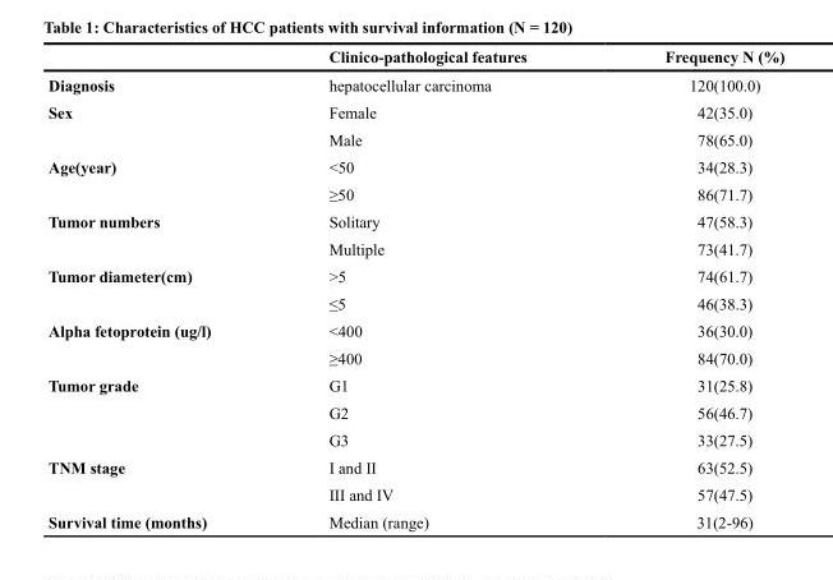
<table><thead><tr><td></td><td>Clinico-pathological features</td><td>Frequency N (%)</td></tr></thead><tbody><tr><td>Diagnosis</td><td>hepatocellular carcinoma</td><td>120(100.0)</td></tr><tr><td rowspan="2">Sex</td><td>Female</td><td>42(35.0)</td></tr><tr><td>Male</td><td>78(65.0)</td></tr><tr><td rowspan="2">Age(year)</td><td>&lt;50</td><td>34(28.3)</td></tr><tr><td>≥50</td><td>86(71.7)</td></tr><tr><td rowspan="2">Tumor numbers</td><td>Solitary</td><td>47(58.3)</td></tr><tr><td>Multiple</td><td>73(41.7)</td></tr><tr><td rowspan="2">Tumor diameter(cm)</td><td>&gt;5</td><td>74(61.7)</td></tr><tr><td>≤5</td><td>46(38.3)</td></tr><tr><td rowspan="2">Alpha fetoprotein (ug/l)</td><td>&lt;400</td><td>36(30.0)</td></tr><tr><td>≥400</td><td>84(70.0)</td></tr><tr><td rowspan="3">Tumor grade</td><td>G1</td><td>31(25.8)</td></tr><tr><td>G2</td><td>56(46.7)</td></tr><tr><td>G3</td><td>33(27.5)</td></tr><tr><td rowspan="2">TNM stage</td><td>I and II</td><td>63(52.5)</td></tr><tr><td>III and IV</td><td>57(47.5)</td></tr><tr><td>Survival time (months)</td><td>Median (range)</td><td>31(2-96)</td></tr></tbody></table>